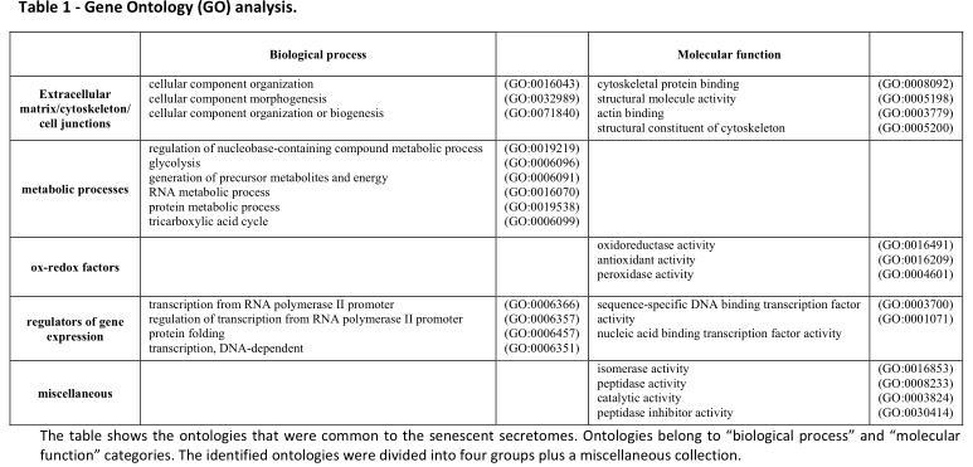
<table><thead><tr><td></td><td>Biological process</td><td></td><td>Molecular function</td><td></td></tr></thead><tbody><tr><td>Extracellular matrix/cytoskeleton/ cell junctions</td><td>cellular component organization cellular component morphogenesis cellular component organization or biogenesis</td><td>(GO:0016043) (GO:0032989) (GO:0071840)</td><td>cytoskeletal protein binding structural molecule activity actin binding structural constituent of cytoskeleton</td><td>(GO:0008092) (GO:0005198) (GO:0003779) (GO:0005200)</td></tr><tr><td>metabolic processes</td><td>regulation of nucleobase-containing compound metabolic process glycolysis generation of precursor metabolites and energy RNA metabolic process protein metabolic process tricarboxylic acid cycle</td><td>(GO:0019219) (GO:0006096) (GO:0006091) (GO:0016070) (GO:0019538) (GO:0006099)</td><td></td><td></td></tr><tr><td>ox-redox factors</td><td></td><td></td><td>oxidoreductase activity antioxidant activity peroxidase activity</td><td>(GO:0016491) (GO:0016209) (GO:0004601)</td></tr><tr><td>regulators of gene expression</td><td>transcription from RNA polymerase II promoter regulation of transcription from RNA polymerase II promoter protein folding transcription, DNA-dependent</td><td>(GO:0006366) (GO:0006357) (GO:0006457) (GO:0006351)</td><td>sequence-specific DNA binding transcription factor activity nucleic acid binding transcription factor activity</td><td>(GO:0003700) (GO:0001071)</td></tr><tr><td>miscellaneous</td><td></td><td></td><td>isomerase activity peptidase activity catalytic activity peptidase inhibitor activity</td><td>(GO:0016853) (GO:0008233) (GO:0003824) (GO:0030414)</td></tr></tbody></table>